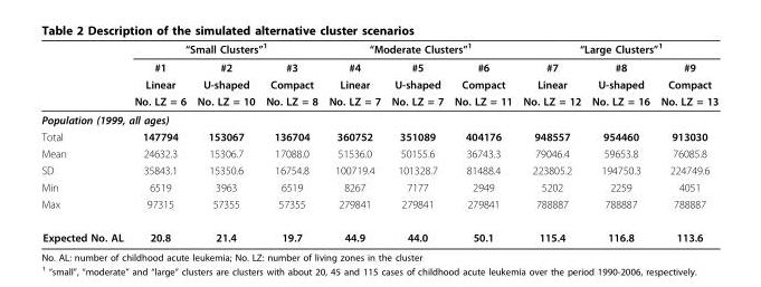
<table><thead><tr><td rowspan="4"></td><td colspan="3">“Small Clusters”1</td><td colspan="3">“Moderate Clusters”1</td><td colspan="3">“Large Clusters”1</td></tr><tr><td rowspan="3">#1 Linear No. LZ = 6</td><td rowspan="3">#2 U-shaped No. LZ = 10</td><td rowspan="3">#3 Compact No. LZ = 8</td><td rowspan="3">#4 Linear No. LZ = 7</td><td rowspan="3">#5 U-shaped No. LZ = 7</td><td rowspan="3">#6 Compact No. LZ = 11</td><td rowspan="3">#7 Linear No. LZ = 12</td><td rowspan="3">#8 U-shaped No. LZ = 16</td><td rowspan="3">#9 Compact No. LZ = 13</td></tr><tr></tr><tr></tr></thead><tbody><tr><td colspan="10">Population (1999, all ages)</td></tr><tr><td>Total</td><td>147794</td><td>153067</td><td>136704</td><td>360752</td><td>351089</td><td>404176</td><td>948557</td><td>954460</td><td>913030</td></tr><tr><td>Mean</td><td>24632.3</td><td>15306.7</td><td>17088.0</td><td>51536.0</td><td>50155.6</td><td>36743.3</td><td>79046.4</td><td>59653.8</td><td>76085.8</td></tr><tr><td>SD</td><td>35843.1</td><td>15350.6</td><td>16754.8</td><td>100719.4</td><td>101328.7</td><td>81488.4</td><td>223805.2</td><td>194750.3</td><td>224749.6</td></tr><tr><td>Min</td><td>6519</td><td>3963</td><td>6519</td><td>8267</td><td>7177</td><td>2949</td><td>5202</td><td>2259</td><td>4051</td></tr><tr><td>Max</td><td>97315</td><td>57355</td><td>57355</td><td>279841</td><td>279841</td><td>279841</td><td>788887</td><td>788887</td><td>788887</td></tr><tr><td>Expected No. AL</td><td>20.8</td><td>21.4</td><td>19.7</td><td>44.9</td><td>44.0</td><td>50.1</td><td>115.4</td><td>116.8</td><td>113.6</td></tr></tbody></table>